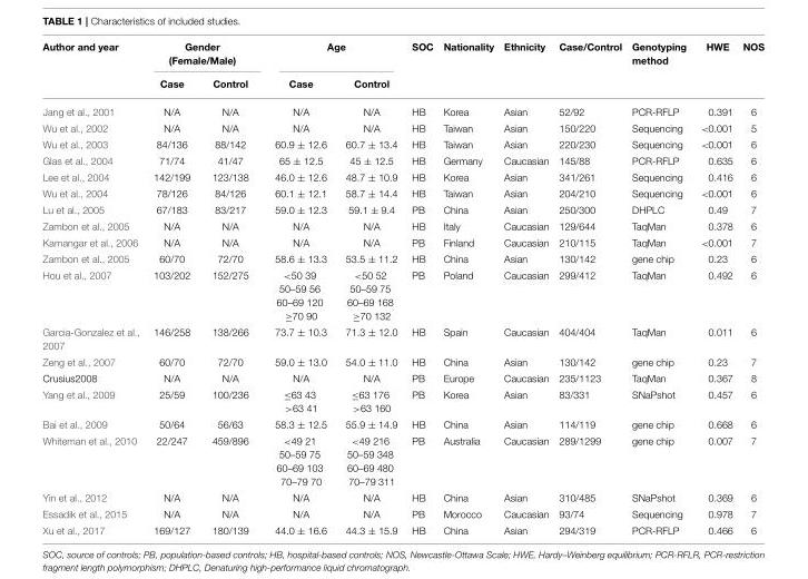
<table><thead><tr><td rowspan="2">Author and year</td><td colspan="2">Gender (Female/Male)</td><td colspan="2">Age</td><td rowspan="2">SOC</td><td rowspan="2">Nationality</td><td rowspan="2">Ethnicity</td><td rowspan="2">Case/Control</td><td rowspan="2">Genotyping method</td><td rowspan="2">HWE</td><td rowspan="2">NOS</td></tr><tr><td>Case</td><td>Control</td><td>Case</td><td>Control</td></tr></thead><tbody><tr><td>Jang et al., 2001</td><td>N/A</td><td>N/A</td><td>N/A</td><td>N/A</td><td>HB</td><td>Korea</td><td>Asian</td><td>52/92</td><td>PCR-RFLP</td><td>0.391</td><td>6</td></tr><tr><td>Wu et al., 2002</td><td>N/A</td><td>N/A</td><td>N/A</td><td>N/A</td><td>HB</td><td>Taiwan</td><td>Asian</td><td>150/220</td><td>Sequencing</td><td>&lt;0.001</td><td>5</td></tr><tr><td>Wu et al., 2003</td><td>84/136</td><td>88/142</td><td>60.9 ± 12.6</td><td>60.7 ± 13.4</td><td>HB</td><td>Taiwan</td><td>Asian</td><td>220/230</td><td>Sequencing</td><td>&lt;0.001</td><td>6</td></tr><tr><td>Glas et al., 2004</td><td>71/74</td><td>41/47</td><td>65 ± 12.5</td><td>45 ± 12.5</td><td>HB</td><td>Germany</td><td>Caucasian</td><td>145/88</td><td>PCR-RFLP</td><td>0.635</td><td>6</td></tr><tr><td>Lee et al., 2004</td><td>142/199</td><td>123/138</td><td>46.0 ± 12.6</td><td>48.7 ± 10.9</td><td>HB</td><td>Korea</td><td>Asian</td><td>341/261</td><td>Sequencing</td><td>0.416</td><td>6</td></tr><tr><td>Wu et al., 2004</td><td>78/126</td><td>84/126</td><td>60.1 ± 12.1</td><td>58.7 ± 14.4</td><td>HB</td><td>Taiwan</td><td>Asian</td><td>204/210</td><td>Sequencing</td><td>&lt;0.001</td><td>6</td></tr><tr><td>Lu et al., 2005</td><td>67/183</td><td>83/217</td><td>59.0 ± 12.3</td><td>59.1 ± 9.4</td><td>PB</td><td>China</td><td>Asian</td><td>250/300</td><td>DHPLC</td><td>0.49</td><td>7</td></tr><tr><td>Zambon et al., 2005</td><td>N/A</td><td>N/A</td><td>N/A</td><td>N/A</td><td>HB</td><td>Italy</td><td>Caucasian</td><td>129/644</td><td>TaqMan</td><td>0.378</td><td>6</td></tr><tr><td>Kamangar et al., 2006</td><td>N/A</td><td>N/A</td><td>N/A</td><td>N/A</td><td>PB</td><td>Finland</td><td>Caucasian</td><td>210/115</td><td>TaqMan</td><td>&lt;0.001</td><td>7</td></tr><tr><td>Zambon et al., 2005</td><td>60/70</td><td>72/70</td><td>58.6 ± 13.3</td><td>53.5 ± 11.2</td><td>HB</td><td>China</td><td>Asian</td><td>130/142</td><td>gene chip</td><td>0.23</td><td>6</td></tr><tr><td>Hou et al., 2007</td><td>103/202</td><td>152/275</td><td>&lt;50 39 50–59 56 60–69 120 ≥70 90</td><td>&lt;50 52 50–59 75 60–69 168 ≥70 132</td><td>PB</td><td>Poland</td><td>Caucasian</td><td>299/412</td><td>TaqMan</td><td>0.492</td><td>6</td></tr><tr><td>Garcia-Gonzalez et al., 2007</td><td>146/258</td><td>138/266</td><td>73.7 ± 10.3</td><td>71.3 ± 12.0</td><td>HB</td><td>Spain</td><td>Caucasian</td><td>404/404</td><td>TaqMan</td><td>0.011</td><td>6</td></tr><tr><td>Zeng et al., 2007</td><td>60/70</td><td>72/70</td><td>59.0 ± 13.0</td><td>54.0 ± 11.0</td><td>HB</td><td>China</td><td>Asian</td><td>130/142</td><td>gene chip</td><td>0.23</td><td>7</td></tr><tr><td>Crusius2008</td><td>N/A</td><td>N/A</td><td>N/A</td><td>N/A</td><td>PB</td><td>Europe</td><td>Caucasian</td><td>235/1123</td><td>TaqMan</td><td>0.367</td><td>8</td></tr><tr><td>Yang et al., 2009</td><td>25/59</td><td>100/236</td><td>≤63 43 &gt;63 41</td><td>≤63 176 &gt;63 160</td><td>PB</td><td>Korea</td><td>Asian</td><td>83/331</td><td>SNaPshot</td><td>0.457</td><td>6</td></tr><tr><td>Bai et al., 2009</td><td>50/64</td><td>56/63</td><td>58.3 ± 12.5</td><td>55.9 ± 14.9</td><td>HB</td><td>China</td><td>Asian</td><td>114/119</td><td>gene chip</td><td>0.668</td><td>6</td></tr><tr><td>Whiteman et al., 2010</td><td>22/247</td><td>459/896</td><td>&lt;49 21 50–59 75 60–69 103 70–79 70</td><td>&lt;49 216 50–59 348 60–69 480 70–79 311</td><td>PB</td><td>Australia</td><td>Caucasian</td><td>289/1299</td><td>gene chip</td><td>0.007</td><td>7</td></tr><tr><td>Yin et al., 2012</td><td>N/A</td><td>N/A</td><td>N/A</td><td>N/A</td><td>HB</td><td>China</td><td>Asian</td><td>310/485</td><td>SNaPshot</td><td>0.369</td><td>6</td></tr><tr><td>Essadik et al., 2015</td><td>N/A</td><td>N/A</td><td>N/A</td><td>N/A</td><td>PB</td><td>Morocco</td><td>Caucasian</td><td>93/74</td><td>Sequencing</td><td>0.978</td><td>7</td></tr><tr><td>Xu et al., 2017</td><td>169/127</td><td>180/139</td><td>44.0 ± 16.6</td><td>44.3 ± 15.9</td><td>HB</td><td>China</td><td>Asian</td><td>294/319</td><td>PCR-RFLP</td><td>0.466</td><td>6</td></tr></tbody></table>